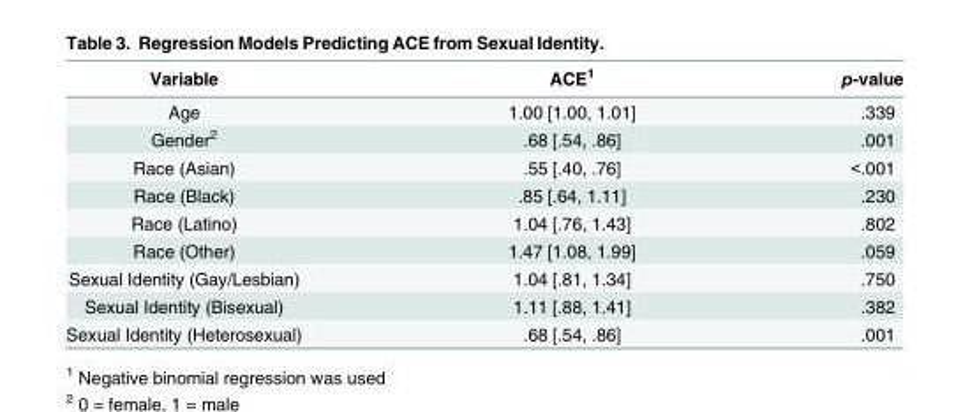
<table><thead><tr><td>Variable</td><td>ACE<sup>1</sup></td><td>p-value</td></tr></thead><tbody><tr><td>Age</td><td>1.00 [1.00, 1.01]</td><td>.339</td></tr><tr><td>Gender<sup>2</sup></td><td>.68 [.54, .86]</td><td>.001</td></tr><tr><td>Race (Asian)</td><td>.55 [.40, .76]</td><td>&lt;.001</td></tr><tr><td>Race (Black)</td><td>.85 [.64, 1.11]</td><td>.230</td></tr><tr><td>Race (Latino)</td><td>1.04 [.76, 1.43]</td><td>.802</td></tr><tr><td>Race (Other)</td><td>1.47 [1.08, 1.99]</td><td>.059</td></tr><tr><td>Sexual Identity (Gay/Lesbian)</td><td>1.04 [.81, 1.34]</td><td>.750</td></tr><tr><td>Sexual Identity (Bisexual)</td><td>1.11 [.88, 1.41]</td><td>.382</td></tr><tr><td>Sexual Identity (Heterosexual)</td><td>.68 [.54, .86]</td><td>.001</td></tr></tbody></table>